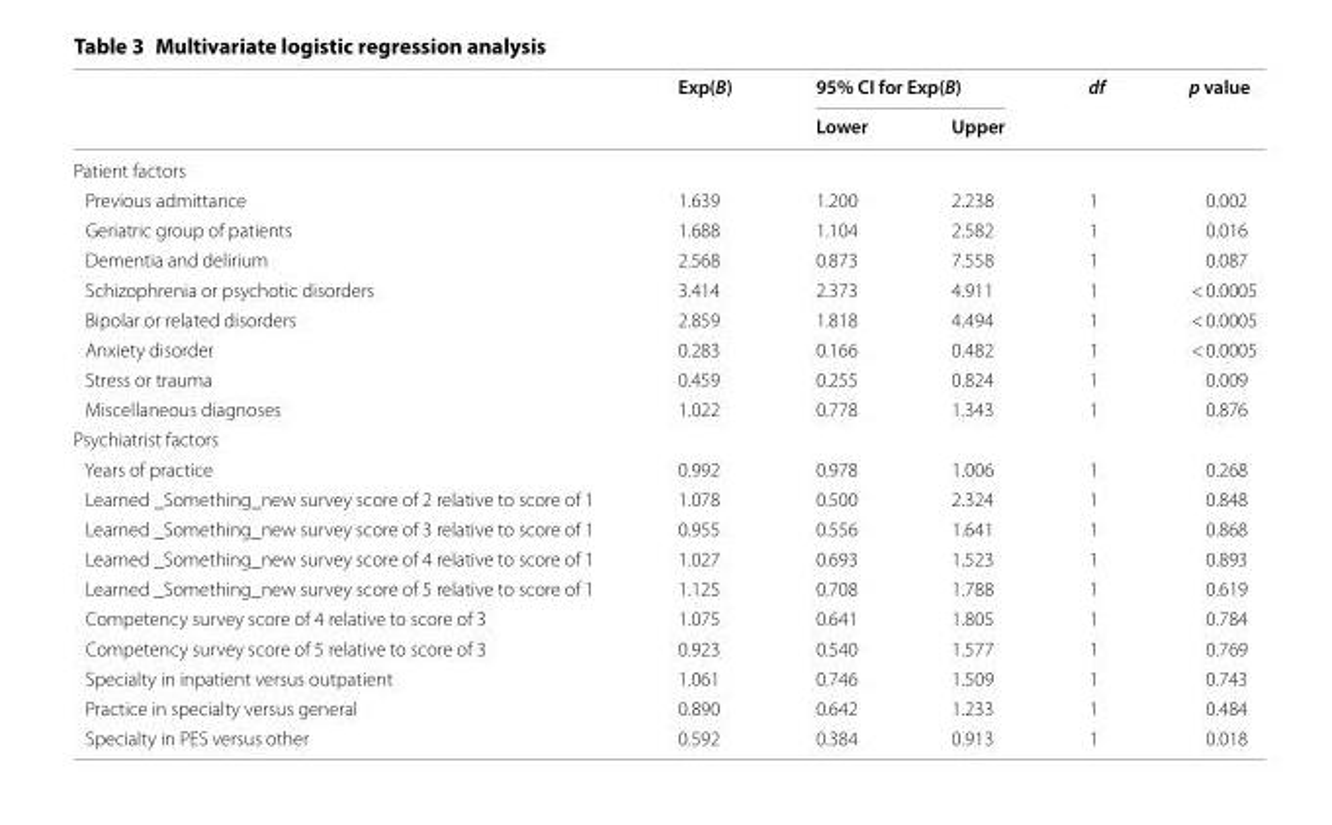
<table><thead><tr><td rowspan="2"></td><td rowspan="2">Exp(B)</td><td colspan="2">95% CI for Exp(B)</td><td rowspan="2">df</td><td rowspan="2">p value</td></tr><tr><td>Lower</td><td>Upper</td></tr></thead><tbody><tr><td colspan="6">Patient factors</td></tr><tr><td>Previous admittance</td><td>1.639</td><td>1.200</td><td>2.238</td><td>1</td><td>0.002</td></tr><tr><td>Geriatric group of patients</td><td>1.688</td><td>1.104</td><td>2.582</td><td>1</td><td>0.016</td></tr><tr><td>Dementia and delirium</td><td>2.568</td><td>0.873</td><td>7.558</td><td>1</td><td>0.087</td></tr><tr><td>Schizophrenia or psychotic disorders</td><td>3.414</td><td>2.373</td><td>4.911</td><td>1</td><td>&lt; 0.0005</td></tr><tr><td>Bipolar or related disorders</td><td>2.859</td><td>1.818</td><td>4.494</td><td>1</td><td>&lt; 0.0005</td></tr><tr><td>Anxiety disorder</td><td>0.283</td><td>0.166</td><td>0.482</td><td>1</td><td>&lt; 0.0005</td></tr><tr><td>Stress or trauma</td><td>0.459</td><td>0.255</td><td>0.824</td><td>1</td><td>0.009</td></tr><tr><td>Miscellaneous diagnoses</td><td>1.022</td><td>0.778</td><td>1.343</td><td>1</td><td>0.876</td></tr><tr><td colspan="6">Psychiatrist factors</td></tr><tr><td>Years of practice</td><td>0.992</td><td>0.978</td><td>1.006</td><td>1</td><td>0.268</td></tr><tr><td>Learned _Something_new survey score of 2 relative to score of 1</td><td>1.078</td><td>0.500</td><td>2.324</td><td>1</td><td>0.848</td></tr><tr><td>Learned _Something_new survey score of 3 relative to score of 1</td><td>0.955</td><td>0.556</td><td>1.641</td><td>1</td><td>0.868</td></tr><tr><td>Learned _Something_new survey score of 4 relative to score of 1</td><td>1.027</td><td>0.693</td><td>1.523</td><td>1</td><td>0.893</td></tr><tr><td>Learned _Something_new survey score of 5 relative to score of 1</td><td>1.125</td><td>0.708</td><td>1.788</td><td>1</td><td>0.619</td></tr><tr><td>Competency survey score of 4 relative to score of 3</td><td>1.075</td><td>0.641</td><td>1.805</td><td>1</td><td>0.784</td></tr><tr><td>Competency survey score of 5 relative to score of 3</td><td>0.923</td><td>0.540</td><td>1.577</td><td>1</td><td>0.769</td></tr><tr><td>Specialty in inpatient versus outpatient</td><td>1.061</td><td>0.746</td><td>1.509</td><td>1</td><td>0.743</td></tr><tr><td>Practice in specialty versus general</td><td>0.890</td><td>0.642</td><td>1.233</td><td>1</td><td>0.484</td></tr><tr><td>Specialty in PES versus other</td><td>0.592</td><td>0.384</td><td>0.913</td><td>1</td><td>0.018</td></tr></tbody></table>